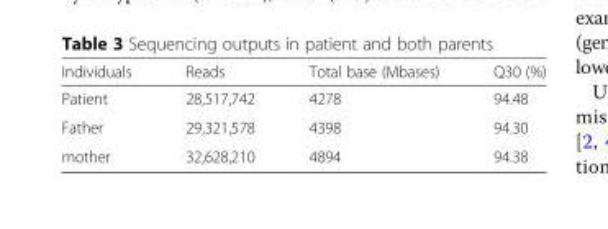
<table><thead><tr><td>Individuals</td><td>Reads</td><td>Total base (Mbases)</td><td>Q30 (%)</td></tr></thead><tbody><tr><td>Patient</td><td>28,517,742</td><td>4278</td><td>94.48</td></tr><tr><td>Father</td><td>29,321,578</td><td>4398</td><td>94.30</td></tr><tr><td>mother</td><td>32,628,210</td><td>4894</td><td>94.38</td></tr></tbody></table>